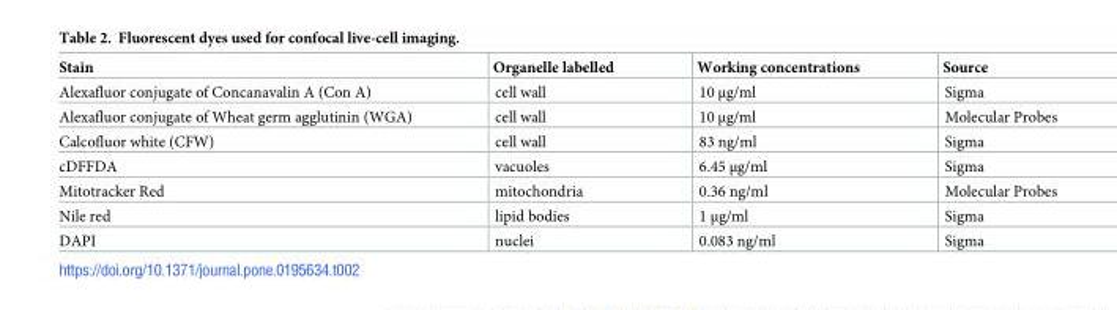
<table><thead><tr><td>Stain</td><td>Organelle labelled</td><td>Working concentrations</td><td>Source</td></tr></thead><tbody><tr><td>Alexafluor conjugate of Concanavalin A (Con A)</td><td>cell wall</td><td>10 μg/ml</td><td>Sigma</td></tr><tr><td>Alexafluor conjugate of Wheat germ agglutinin (WGA)</td><td>cell wall</td><td>10 μg/ml</td><td>Molecular Probes</td></tr><tr><td>Calcofluor white (CFW)</td><td>cell wall</td><td>83 ng/ml</td><td>Sigma</td></tr><tr><td>cDFFDA</td><td>vacuoles</td><td>6.45 μg/ml</td><td>Sigma</td></tr><tr><td>Mitotracker Red</td><td>mitochondria</td><td>0.36 ng/ml</td><td>Molecular Probes</td></tr><tr><td>Nile red</td><td>lipid bodies</td><td>1 μg/ml</td><td>Sigma</td></tr><tr><td>DAPI</td><td>nuclei</td><td>0.083 ng/ml</td><td>Sigma</td></tr></tbody></table>